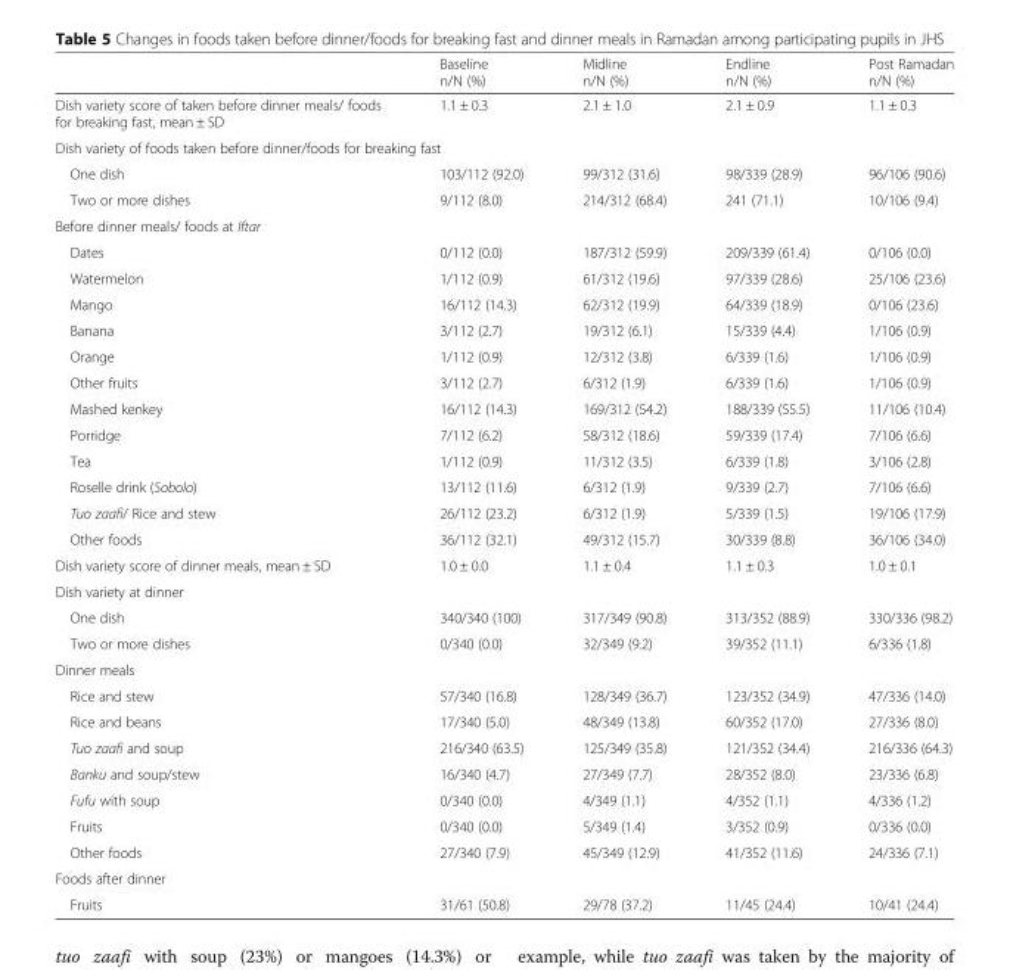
<table><thead><tr><td></td><td>Baseline n/N (%)</td><td>Midline n/N (%)</td><td>Endline n/N (%)</td><td>Post Ramadan n/N (%)</td></tr></thead><tbody><tr><td>Dish variety score of taken before dinner meals/ foods for breaking fast, mean ± SD</td><td>1.1 ± 0.3</td><td>2.1 ± 1.0</td><td>2.1 ± 0.9</td><td>1.1 ± 0.3</td></tr><tr><td colspan="5">Dish variety of foods taken before dinner/foods for breaking fast</td></tr><tr><td>One dish</td><td>103/112 (92.0)</td><td>99/312 (31.6)</td><td>98/339 (28.9)</td><td>96/106 (90.6)</td></tr><tr><td>Two or more dishes</td><td>9/112 (8.0)</td><td>214/312 (68.4)</td><td>241 (71.1)</td><td>10/106 (9.4)</td></tr><tr><td colspan="5">Before dinner meals/ foods at Iftar</td></tr><tr><td>Dates</td><td>0/112 (0.0)</td><td>187/312 (59.9)</td><td>209/339 (61.4)</td><td>0/106 (0.0)</td></tr><tr><td>Watermelon</td><td>1/112 (0.9)</td><td>61/312 (19.6)</td><td>97/339 (28.6)</td><td>25/106 (23.6)</td></tr><tr><td>Mango</td><td>16/112 (14.3)</td><td>62/312 (19.9)</td><td>64/339 (18.9)</td><td>0/106 (23.6)</td></tr><tr><td>Banana</td><td>3/112 (2.7)</td><td>19/312 (6.1)</td><td>15/339 (4.4)</td><td>1/106 (0.9)</td></tr><tr><td>Orange</td><td>1/112 (0.9)</td><td>12/312 (3.8)</td><td>6/339 (1.6)</td><td>1/106 (0.9)</td></tr><tr><td>Other fruits</td><td>3/112 (2.7)</td><td>6/312 (1.9)</td><td>6/339 (1.6)</td><td>1/106 (0.9)</td></tr><tr><td>Mashed kenkey</td><td>16/112 (14.3)</td><td>169/312 (54.2)</td><td>188/339 (55.5)</td><td>11/106 (10.4)</td></tr><tr><td>Porridge</td><td>7/112 (6.2)</td><td>58/312 (18.6)</td><td>59/339 (17.4)</td><td>7/106 (6.6)</td></tr><tr><td>Tea</td><td>1/112 (0.9)</td><td>11/312 (3.5)</td><td>6/339 (1.8)</td><td>3/106 (2.8)</td></tr><tr><td>Roselle drink (Sobolo)</td><td>13/112 (11.6)</td><td>6/312 (1.9)</td><td>9/339 (2.7)</td><td>7/106 (6.6)</td></tr><tr><td>Tuo zaafi/ Rice and stew</td><td>26/112 (23.2)</td><td>6/312 (1.9)</td><td>5/339 (1.5)</td><td>19/106 (17.9)</td></tr><tr><td>Other foods</td><td>36/112 (32.1)</td><td>49/312 (15.7)</td><td>30/339 (8.8)</td><td>36/106 (34.0)</td></tr><tr><td>Dish variety score of dinner meals, mean ± SD</td><td>1.0 ± 0.0</td><td>1.1 ± 0.4</td><td>1.1 ± 0.3</td><td>1.0 ± 0.1</td></tr><tr><td colspan="5">Dish variety at dinner</td></tr><tr><td>One dish</td><td>340/340 (100)</td><td>317/349 (90.8)</td><td>313/352 (88.9)</td><td>330/336 (98.2)</td></tr><tr><td>Two or more dishes</td><td>0/340 (0.0)</td><td>32/349 (9.2)</td><td>39/352 (11.1)</td><td>6/336 (1.8)</td></tr><tr><td colspan="5">Dinner meals</td></tr><tr><td>Rice and stew</td><td>57/340 (16.8)</td><td>128/349 (36.7)</td><td>123/352 (34.9)</td><td>47/336 (14.0)</td></tr><tr><td>Rice and beans</td><td>17/340 (5.0)</td><td>48/349 (13.8)</td><td>60/352 (17.0)</td><td>27/336 (8.0)</td></tr><tr><td>Tuo zaafi and soup</td><td>216/340 (63.5)</td><td>125/349 (35.8)</td><td>121/352 (34.4)</td><td>216/336 (64.3)</td></tr><tr><td>Banku and soup/stew</td><td>16/340 (4.7)</td><td>27/349 (7.7)</td><td>28/352 (8.0)</td><td>23/336 (6.8)</td></tr><tr><td>Fufu with soup</td><td>0/340 (0.0)</td><td>4/349 (1.1)</td><td>4/352 (1.1)</td><td>4/336 (1.2)</td></tr><tr><td>Fruits</td><td>0/340 (0.0)</td><td>5/349 (1.4)</td><td>3/352 (0.9)</td><td>0/336 (0.0)</td></tr><tr><td>Other foods</td><td>27/340 (7.9)</td><td>45/349 (12.9)</td><td>41/352 (11.6)</td><td>24/336 (7.1)</td></tr><tr><td colspan="5">Foods after dinner</td></tr><tr><td>Fruits</td><td>31/61 (50.8)</td><td>29/78 (37.2)</td><td>11/45 (24.4)</td><td>10/41 (24.4)</td></tr></tbody></table>